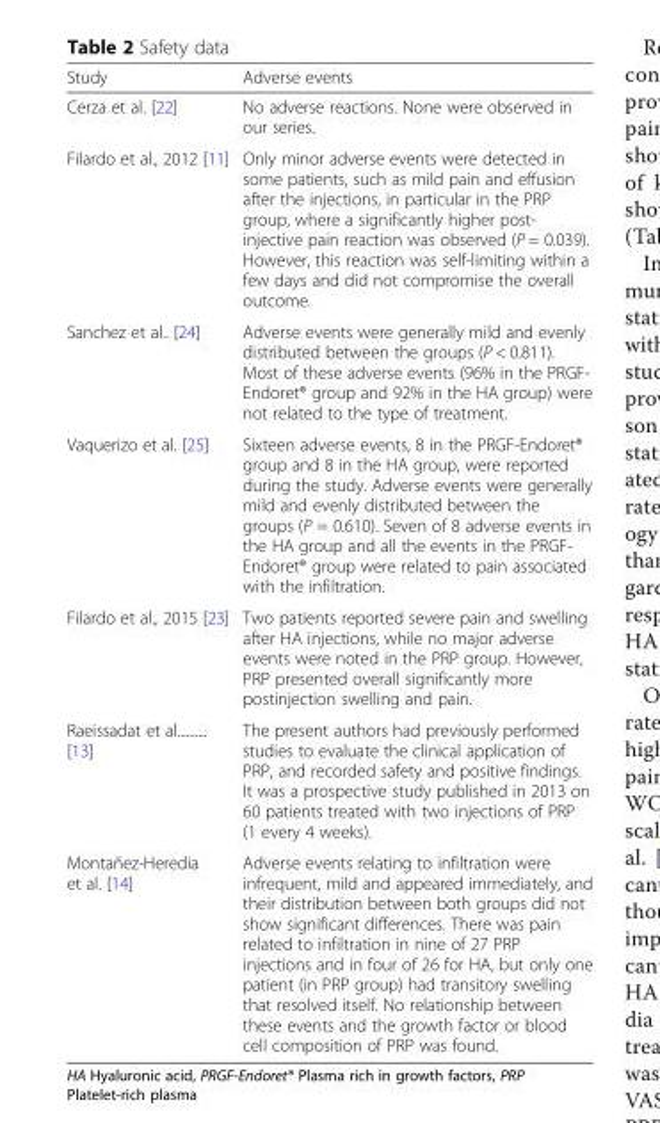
<table><thead><tr><td>Study</td><td>Adverse events</td></tr></thead><tbody><tr><td>Cerza et al. [22]</td><td>No adverse reactions. None were observed in our series.</td></tr><tr><td>Filardo et al., 2012 [11]</td><td>Only minor adverse events were detected in some patients, such as mild pain and effusion after the injections, in particular in the PRP group, where a significantly higher post- injective pain reaction was observed (P = 0.039). However, this reaction was self-limiting within a few days and did not compromise the overall outcome.</td></tr><tr><td>Sanchez et al.. [24]</td><td>Adverse events were generally mild and evenly distributed between the groups (P &lt; 0.811). Most of these adverse events (96% in the PRGF- Endoret® group and 92% in the HA group) were not related to the type of treatment.</td></tr><tr><td>Vaquerizo et al. [25]</td><td>Sixteen adverse events, 8 in the PRGF-Endoret® group and 8 in the HA group, were reported during the study. Adverse events were generally mild and evenly distributed between the groups (P = 0.610). Seven of 8 adverse events in the HA group and all the events in the PRGF- Endoret® group were related to pain associated with the infiltration.</td></tr><tr><td>Filardo et al., 2015 [23]</td><td>Two patients reported severe pain and swelling after HA injections, while no major adverse events were noted in the PRP group. However, PRP presented overall significantly more postinjection swelling and pain.</td></tr><tr><td>Raeissadat et al.......... [13]</td><td>The present authors had previously performed studies to evaluate the clinical application of PRP, and recorded safety and positive findings. It was a prospective study published in 2013 on 60 patients treated with two injections of PRP (1 every 4 weeks).</td></tr><tr><td>Montañez-Heredia et al. [14]</td><td>Adverse events relating to infiltration were infrequent, mild and appeared immediately, and their distribution between both groups did not show significant differences. There was pain related to infiltration in nine of 27 PRP injections and in four of 26 for HA, but only one patient (in PRP group) had transitory swelling that resolved itself. No relationship between these events and the growth factor or blood cell composition of PRP was found.</td></tr></tbody></table>